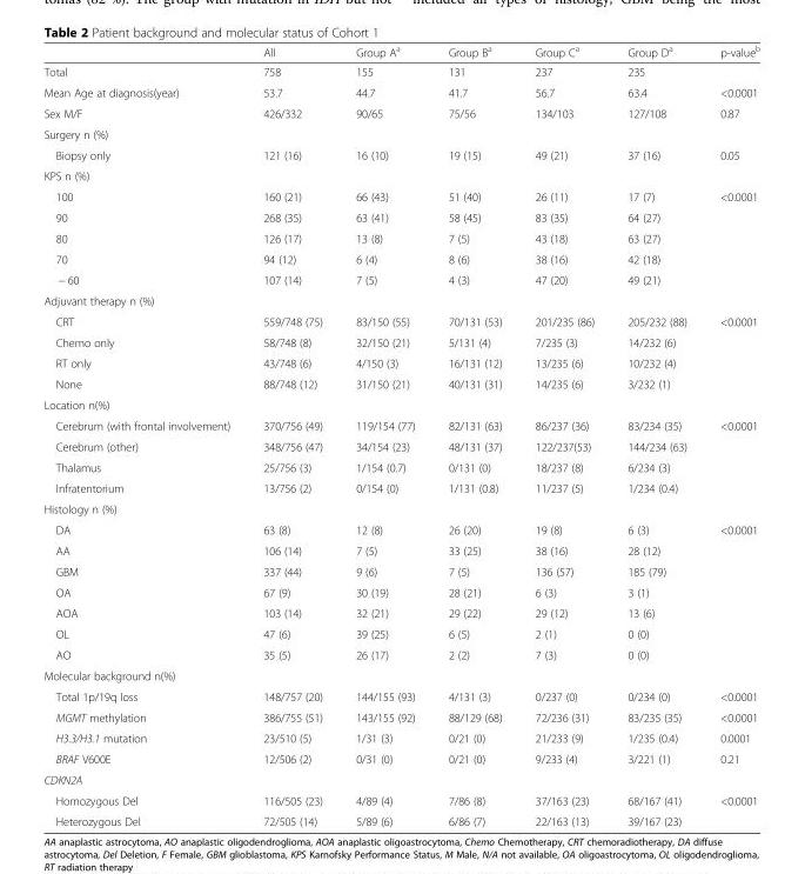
<table><thead><tr><td></td><td>All</td><td>Group A<sup>a</sup></td><td>Group B<sup>a</sup></td><td>Group C<sup>a</sup></td><td>Group D<sup>a</sup></td><td>p-value<sup>b</sup></td></tr></thead><tbody><tr><td>Total</td><td>758</td><td>155</td><td>131</td><td>237</td><td>235</td><td></td></tr><tr><td>Mean Age at diagnosis(year)</td><td>53.7</td><td>44.7</td><td>41.7</td><td>56.7</td><td>63.4</td><td>&lt;0.0001</td></tr><tr><td>Sex M/F</td><td>426/332</td><td>90/65</td><td>75/56</td><td>134/103</td><td>127/108</td><td>0.87</td></tr><tr><td colspan="7">Surgery n (%)</td></tr><tr><td>Biopsy only</td><td>121 (16)</td><td>16 (10)</td><td>19 (15)</td><td>49 (21)</td><td>37 (16)</td><td>0.05</td></tr><tr><td colspan="7">KPS n (%)</td></tr><tr><td>100</td><td>160 (21)</td><td>66 (43)</td><td>51 (40)</td><td>26 (11)</td><td>17 (7)</td><td rowspan="5">&lt;0.0001</td></tr><tr><td>90</td><td>268 (35)</td><td>63 (41)</td><td>58 (45)</td><td>83 (35)</td><td>64 (27)</td></tr><tr><td>80</td><td>126 (17)</td><td>13 (8)</td><td>7 (5)</td><td>43 (18)</td><td>63 (27)</td></tr><tr><td>70</td><td>94 (12)</td><td>6 (4)</td><td>8 (6)</td><td>38 (16)</td><td>42 (18)</td></tr><tr><td>− 60</td><td>107 (14)</td><td>7 (5)</td><td>4 (3)</td><td>47 (20)</td><td>49 (21)</td></tr><tr><td colspan="7">Adjuvant therapy n (%)</td></tr><tr><td>CRT</td><td>559/748 (75)</td><td>83/150 (55)</td><td>70/131 (53)</td><td>201/235 (86)</td><td>205/232 (88)</td><td rowspan="4">&lt;0.0001</td></tr><tr><td>Chemo only</td><td>58/748 (8)</td><td>32/150 (21)</td><td>5/131 (4)</td><td>7/235 (3)</td><td>14/232 (6)</td></tr><tr><td>RT only</td><td>43/748 (6)</td><td>4/150 (3)</td><td>16/131 (12)</td><td>13/235 (6)</td><td>10/232 (4)</td></tr><tr><td>None</td><td>88/748 (12)</td><td>31/150 (21)</td><td>40/131 (31)</td><td>14/235 (6)</td><td>3/232 (1)</td></tr><tr><td colspan="7">Location n(%)</td></tr><tr><td>Cerebrum (with frontal involvement)</td><td>370/756 (49)</td><td>119/154 (77)</td><td>82/131 (63)</td><td>86/237 (36)</td><td>83/234 (35)</td><td rowspan="4">&lt;0.0001</td></tr><tr><td>Cerebrum (other)</td><td>348/756 (47)</td><td>34/154 (23)</td><td>48/131 (37)</td><td>122/237(53)</td><td>144/234 (63)</td></tr><tr><td>Thalamus</td><td>25/756 (3)</td><td>1/154 (0.7)</td><td>0/131 (0)</td><td>18/237 (8)</td><td>6/234 (3)</td></tr><tr><td>Infratentorium</td><td>13/756 (2)</td><td>0/154 (0)</td><td>1/131 (0.8)</td><td>11/237 (5)</td><td>1/234 (0.4)</td></tr><tr><td colspan="7">Histology n (%)</td></tr><tr><td>DA</td><td>63 (8)</td><td>12 (8)</td><td>26 (20)</td><td>19 (8)</td><td>6 (3)</td><td rowspan="7">&lt;0.0001</td></tr><tr><td>AA</td><td>106 (14)</td><td>7 (5)</td><td>33 (25)</td><td>38 (16)</td><td>28 (12)</td></tr><tr><td>GBM</td><td>337 (44)</td><td>9 (6)</td><td>7 (5)</td><td>136 (57)</td><td>185 (79)</td></tr><tr><td>OA</td><td>67 (9)</td><td>30 (19)</td><td>28 (21)</td><td>6 (3)</td><td>3 (1)</td></tr><tr><td>AOA</td><td>103 (14)</td><td>32 (21)</td><td>29 (22)</td><td>29 (12)</td><td>13 (6)</td></tr><tr><td>OL</td><td>47 (6)</td><td>39 (25)</td><td>6 (5)</td><td>2 (1)</td><td>0 (0)</td></tr><tr><td>AO</td><td>35 (5)</td><td>26 (17)</td><td>2 (2)</td><td>7 (3)</td><td>0 (0)</td></tr><tr><td colspan="7">Molecular background n(%)</td></tr><tr><td>Total 1p/19q loss</td><td>148/757 (20)</td><td>144/155 (93)</td><td>4/131 (3)</td><td>0/237 (0)</td><td>0/234 (0)</td><td>&lt;0.0001</td></tr><tr><td>MGMT methylation</td><td>386/755 (51)</td><td>143/155 (92)</td><td>88/129 (68)</td><td>72/236 (31)</td><td>83/235 (35)</td><td>&lt;0.0001</td></tr><tr><td>H3.3/H3.1 mutation</td><td>23/510 (5)</td><td>1/31 (3)</td><td>0/21 (0)</td><td>21/233 (9)</td><td>1/235 (0.4)</td><td>0.0001</td></tr><tr><td>BRAF V600E</td><td>12/506 (2)</td><td>0/31 (0)</td><td>0/21 (0)</td><td>9/233 (4)</td><td>3/221 (1)</td><td>0.21</td></tr><tr><td colspan="7">CDKN2A</td></tr><tr><td>Homozygous Del</td><td>116/505 (23)</td><td>4/89 (4)</td><td>7/86 (8)</td><td>37/163 (23)</td><td>68/167 (41)</td><td>&lt;0.0001</td></tr><tr><td>Heterozygous Del</td><td>72/505 (14)</td><td>5/89 (6)</td><td>6/86 (7)</td><td>22/163 (13)</td><td>39/167 (23)</td><td></td></tr></tbody></table>